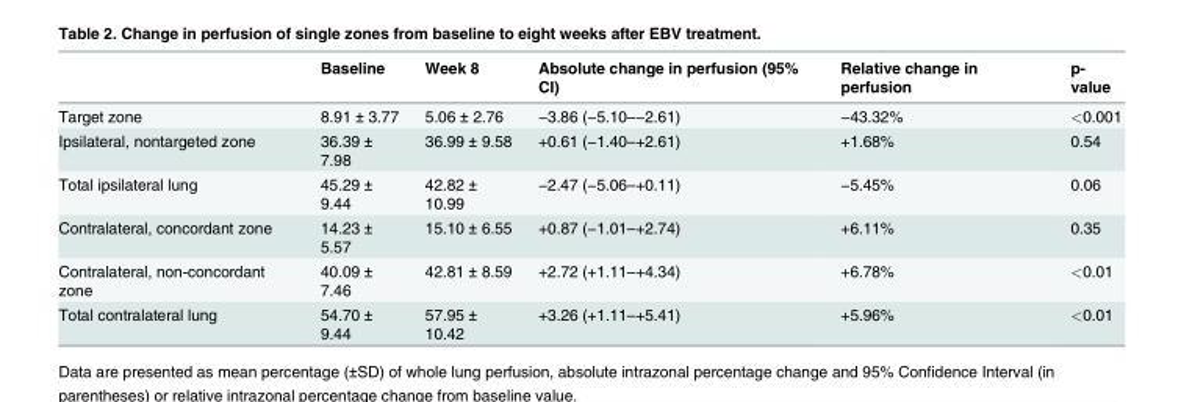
<table><thead><tr><td></td><td>Baseline</td><td>Week 8</td><td>Absolute change in perfusion (95% CI)</td><td>Relative change in perfusion</td><td>p- value</td></tr></thead><tbody><tr><td>Target zone</td><td>8.91 ± 3.77</td><td>5.06 ± 2.76</td><td>−3.86 (−5.10–−2.61)</td><td>−43.32%</td><td>&lt;0.001</td></tr><tr><td>Ipsilateral, nontargeted zone</td><td>36.39 ± 7.98</td><td>36.99 ± 9.58</td><td>+0.61 (−1.40–+2.61)</td><td>+1.68%</td><td>0.54</td></tr><tr><td>Total ipsilateral lung</td><td>45.29 ± 9.44</td><td>42.82 ± 10.99</td><td>−2.47 (−5.06–+0.11)</td><td>−5.45%</td><td>0.06</td></tr><tr><td>Contralateral, concordant zone</td><td>14.23 ± 5.57</td><td>15.10 ± 6.55</td><td>+0.87 (−1.01–+2.74)</td><td>+6.11%</td><td>0.35</td></tr><tr><td>Contralateral, non-concordant zone</td><td>40.09 ± 7.46</td><td>42.81 ± 8.59</td><td>+2.72 (+1.11–+4.34)</td><td>+6.78%</td><td>&lt;0.01</td></tr><tr><td>Total contralateral lung</td><td>54.70 ± 9.44</td><td>57.95 ± 10.42</td><td>+3.26 (+1.11–+5.41)</td><td>+5.96%</td><td>&lt;0.01</td></tr></tbody></table>